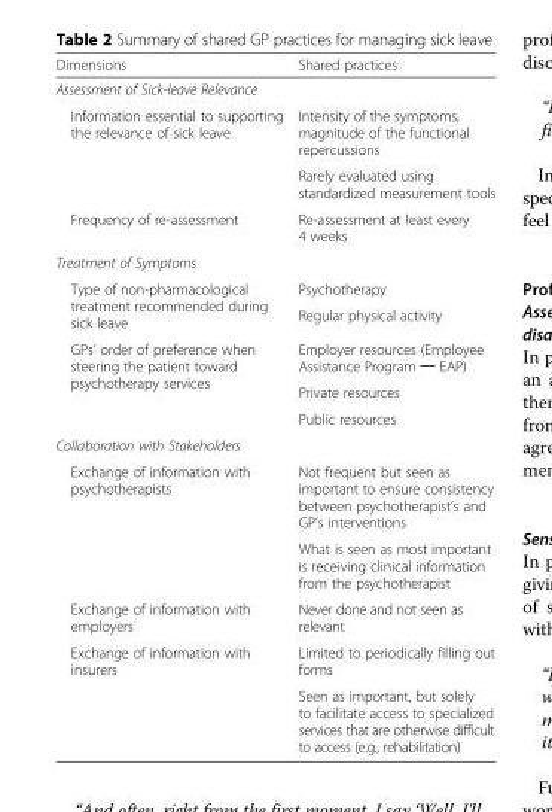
<table><thead><tr><td>Dimensions</td><td>Shared practices</td></tr></thead><tbody><tr><td colspan="2">Assessment of Sick-leave Relevance</td></tr><tr><td rowspan="2">Information essential to supporting the relevance of sick leave</td><td>Intensity of the symptoms, magnitude of the functional repercussions</td></tr><tr><td>Rarely evaluated using standardized measurement tools</td></tr><tr><td>Frequency of re-assessment</td><td>Re-assessment at least every 4 weeks</td></tr><tr><td colspan="2">Treatment of Symptoms</td></tr><tr><td rowspan="2">Type of non-pharmacological treatment recommended during sick leave</td><td>Psychotherapy</td></tr><tr><td>Regular physical activity</td></tr><tr><td rowspan="3">GPs’ order of preference when steering the patient toward psychotherapy services</td><td>Employer resources (Employee Assistance Program ─ EAP)</td></tr><tr><td>Private resources</td></tr><tr><td>Public resources</td></tr><tr><td colspan="2">Collaboration with Stakeholders</td></tr><tr><td rowspan="2">Exchange of information with psychotherapists</td><td>Not frequent but seen as important to ensure consistency between psychotherapist’s and GP’s interventions</td></tr><tr><td>What is seen as most important is receiving clinical information from the psychotherapist</td></tr><tr><td>Exchange of information with employers</td><td>Never done and not seen as relevant</td></tr><tr><td rowspan="2">Exchange of information with insurers</td><td>Limited to periodically filling out forms</td></tr><tr><td>Seen as important, but solely to facilitate access to specialized services that are otherwise difficult to access (e.g., rehabilitation)</td></tr></tbody></table>